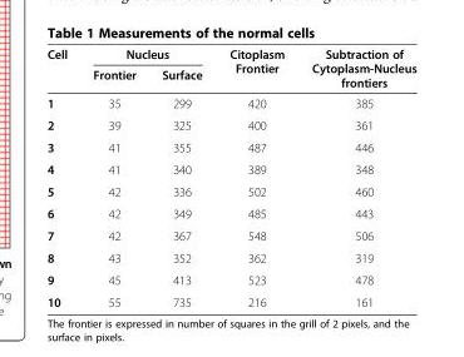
<table><thead><tr><td rowspan="2">Cell</td><td colspan="2">Nucleus</td><td rowspan="2">Citoplasm Frontier</td><td rowspan="2">Subtraction of Cytoplasm-Nucleus frontiers</td></tr><tr><td>Frontier</td><td>Surface</td></tr></thead><tbody><tr><td>1</td><td>35</td><td>299</td><td>420</td><td>385</td></tr><tr><td>2</td><td>39</td><td>325</td><td>400</td><td>361</td></tr><tr><td>3</td><td>41</td><td>355</td><td>487</td><td>446</td></tr><tr><td>4</td><td>41</td><td>340</td><td>389</td><td>348</td></tr><tr><td>5</td><td>42</td><td>336</td><td>502</td><td>460</td></tr><tr><td>6</td><td>42</td><td>349</td><td>485</td><td>443</td></tr><tr><td>7</td><td>42</td><td>367</td><td>548</td><td>506</td></tr><tr><td>8</td><td>43</td><td>352</td><td>362</td><td>319</td></tr><tr><td>9</td><td>45</td><td>413</td><td>523</td><td>478</td></tr><tr><td>10</td><td>55</td><td>735</td><td>216</td><td>161</td></tr></tbody></table>